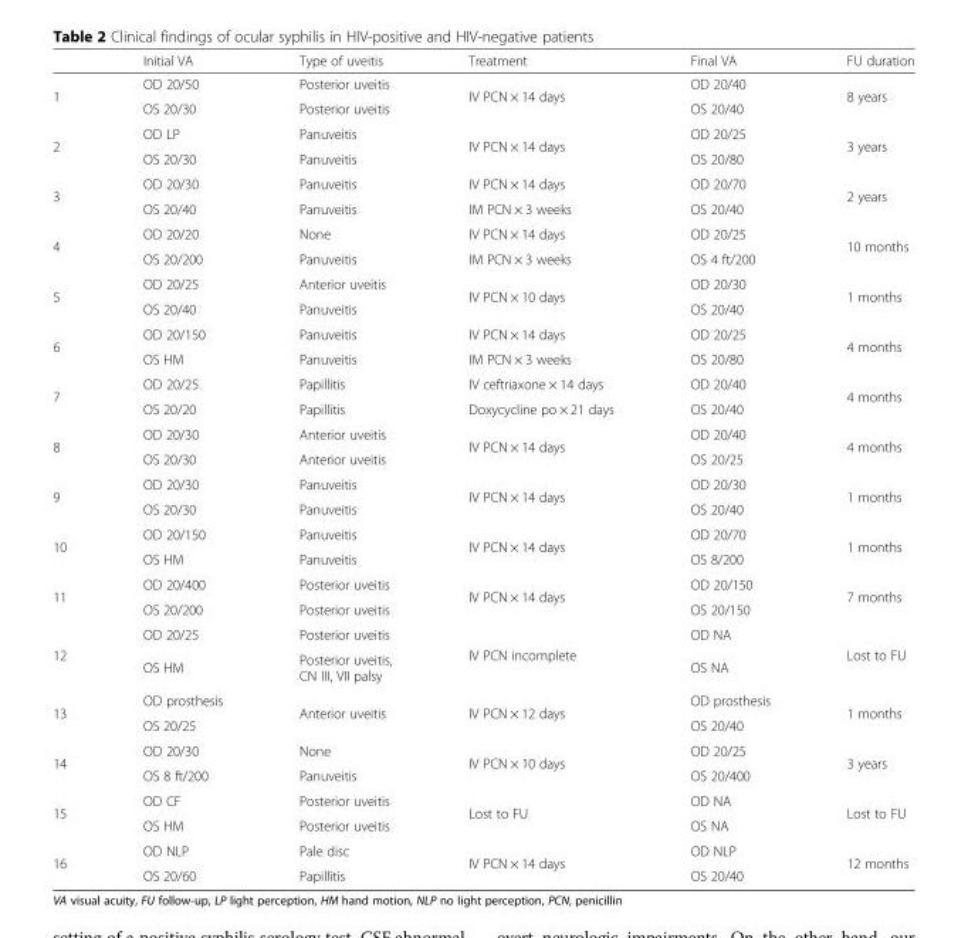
<table><thead><tr><td></td><td>Initial VA</td><td>Type of uveitis</td><td>Treatment</td><td>Final VA</td><td>FU duration</td></tr></thead><tbody><tr><td rowspan="2">1</td><td>OD 20/50</td><td>Posterior uveitis</td><td rowspan="2">IV PCN × 14 days</td><td>OD 20/40</td><td rowspan="2">8 years</td></tr><tr><td>OS 20/30</td><td>Posterior uveitis</td><td>OS 20/40</td></tr><tr><td rowspan="2">2</td><td>OD LP</td><td>Panuveitis</td><td rowspan="2">IV PCN × 14 days</td><td>OD 20/25</td><td rowspan="2">3 years</td></tr><tr><td>OS 20/30</td><td>Panuveitis</td><td>OS 20/80</td></tr><tr><td rowspan="2">3</td><td>OD 20/30</td><td>Panuveitis</td><td>IV PCN × 14 days</td><td>OD 20/70</td><td rowspan="2">2 years</td></tr><tr><td>OS 20/40</td><td>Panuveitis</td><td>IM PCN × 3 weeks</td><td>OS 20/40</td></tr><tr><td rowspan="2">4</td><td>OD 20/20</td><td>None</td><td>IV PCN × 14 days</td><td>OD 20/25</td><td rowspan="2">10 months</td></tr><tr><td>OS 20/200</td><td>Panuveitis</td><td>IM PCN × 3 weeks</td><td>OS 4 ft/200</td></tr><tr><td rowspan="2">5</td><td>OD 20/25</td><td>Anterior uveitis</td><td rowspan="2">IV PCN × 10 days</td><td>OD 20/30</td><td rowspan="2">1 months</td></tr><tr><td>OS 20/40</td><td>Panuveitis</td><td>OS 20/40</td></tr><tr><td rowspan="2">6</td><td>OD 20/150</td><td>Panuveitis</td><td>IV PCN × 14 days</td><td>OD 20/25</td><td rowspan="2">4 months</td></tr><tr><td>OS HM</td><td>Panuveitis</td><td>IM PCN × 3 weeks</td><td>OS 20/80</td></tr><tr><td rowspan="2">7</td><td>OD 20/25</td><td>Papillitis</td><td>IV ceftriaxone × 14 days</td><td>OD 20/40</td><td rowspan="2">4 months</td></tr><tr><td>OS 20/20</td><td>Papillitis</td><td>Doxycycline po × 21 days</td><td>OS 20/40</td></tr><tr><td rowspan="2">8</td><td>OD 20/30</td><td>Anterior uveitis</td><td rowspan="2">IV PCN × 14 days</td><td>OD 20/40</td><td rowspan="2">4 months</td></tr><tr><td>OS 20/30</td><td>Anterior uveitis</td><td>OS 20/25</td></tr><tr><td rowspan="2">9</td><td>OD 20/30</td><td>Panuveitis</td><td rowspan="2">IV PCN × 14 days</td><td>OD 20/30</td><td rowspan="2">1 months</td></tr><tr><td>OS 20/30</td><td>Panuveitis</td><td>OS 20/40</td></tr><tr><td rowspan="2">10</td><td>OD 20/150</td><td>Panuveitis</td><td rowspan="2">IV PCN × 14 days</td><td>OD 20/70</td><td rowspan="2">1 months</td></tr><tr><td>OS HM</td><td>Panuveitis</td><td>OS 8/200</td></tr><tr><td rowspan="2">11</td><td>OD 20/400</td><td>Posterior uveitis</td><td rowspan="2">IV PCN × 14 days</td><td>OD 20/150</td><td rowspan="2">7 months</td></tr><tr><td>OS 20/200</td><td>Posterior uveitis</td><td>OS 20/150</td></tr><tr><td rowspan="2">12</td><td>OD 20/25</td><td>Posterior uveitis</td><td rowspan="2">IV PCN incomplete</td><td>OD NA</td><td rowspan="2">Lost to FU</td></tr><tr><td>OS HM</td><td>Posterior uveitis, CN III, VII palsy</td><td>OS NA</td></tr><tr><td rowspan="2">13</td><td>OD prosthesis</td><td rowspan="2">Anterior uveitis</td><td rowspan="2">IV PCN × 12 days</td><td>OD prosthesis</td><td rowspan="2">1 months</td></tr><tr><td>OS 20/25</td><td>OS 20/40</td></tr><tr><td rowspan="2">14</td><td>OD 20/30</td><td>None</td><td rowspan="2">IV PCN × 10 days</td><td>OD 20/25</td><td rowspan="2">3 years</td></tr><tr><td>OS 8 ft/200</td><td>Panuveitis</td><td>OS 20/400</td></tr><tr><td rowspan="2">15</td><td>OD CF</td><td>Posterior uveitis</td><td rowspan="2">Lost to FU</td><td>OD NA</td><td rowspan="2">Lost to FU</td></tr><tr><td>OS HM</td><td>Posterior uveitis</td><td>OS NA</td></tr><tr><td rowspan="2">16</td><td>OD NLP</td><td>Pale disc</td><td rowspan="2">IV PCN × 14 days</td><td>OD NLP</td><td rowspan="2">12 months</td></tr><tr><td>OS 20/60</td><td>Papillitis</td><td>OS 20/40</td></tr></tbody></table>